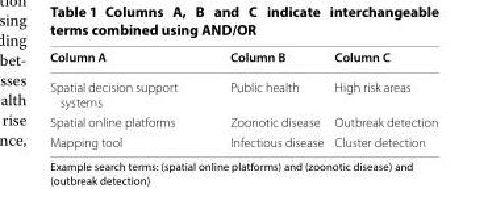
<table><thead><tr><td>Column A</td><td>Column B</td><td>Column C</td></tr></thead><tbody><tr><td>Spatial decision support systems</td><td>Public health</td><td>High risk areas</td></tr><tr><td>Spatial online platforms</td><td>Zoonotic disease</td><td>Outbreak detection</td></tr><tr><td>Mapping tool</td><td>Infectious disease</td><td>Cluster detection</td></tr></tbody></table>